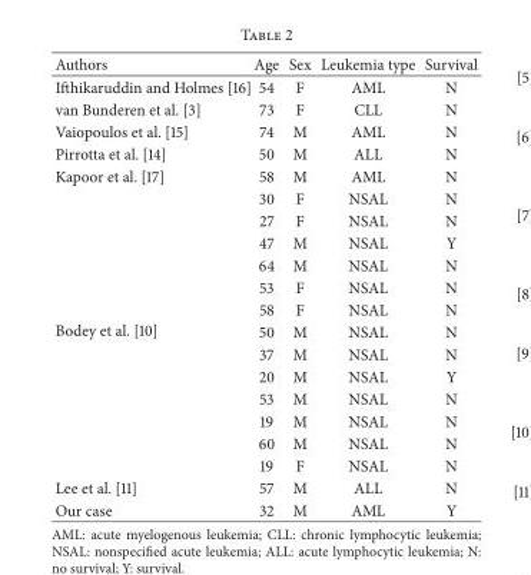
<table><thead><tr><td>Authors</td><td>Age</td><td>Sex</td><td>Leukemia type</td><td>Survival</td></tr></thead><tbody><tr><td>Ifthikaruddin and Holmes [16]</td><td>54</td><td>F</td><td>AML</td><td>N</td></tr><tr><td>van Bunderen et al. [3]</td><td>73</td><td>F</td><td>CLL</td><td>N</td></tr><tr><td>Vaiopoulos et al. [15]</td><td>74</td><td>M</td><td>AML</td><td>N</td></tr><tr><td>Pirrotta et al. [14]</td><td>50</td><td>M</td><td>ALL</td><td>N</td></tr><tr><td>Kapoor et al. [17]</td><td>58</td><td>M</td><td>AML</td><td>N</td></tr><tr><td rowspan="13">Bodey et al. [10]</td><td>30</td><td>F</td><td>NSAL</td><td>N</td></tr><tr><td>27</td><td>F</td><td>NSAL</td><td>N</td></tr><tr><td>47</td><td>M</td><td>NSAL</td><td>Y</td></tr><tr><td>64</td><td>M</td><td>NSAL</td><td>N</td></tr><tr><td>53</td><td>F</td><td>NSAL</td><td>N</td></tr><tr><td>58</td><td>F</td><td>NSAL</td><td>N</td></tr><tr><td>50</td><td>M</td><td>NSAL</td><td>N</td></tr><tr><td>37</td><td>M</td><td>NSAL</td><td>N</td></tr><tr><td>20</td><td>M</td><td>NSAL</td><td>Y</td></tr><tr><td>53</td><td>M</td><td>NSAL</td><td>N</td></tr><tr><td>19</td><td>M</td><td>NSAL</td><td>N</td></tr><tr><td>60</td><td>M</td><td>NSAL</td><td>N</td></tr><tr><td>19</td><td>F</td><td>NSAL</td><td>N</td></tr><tr><td>Lee et al. [11]</td><td>57</td><td>M</td><td>ALL</td><td>N</td></tr><tr><td>Our case</td><td>32</td><td>M</td><td>AML</td><td>Y</td></tr></tbody></table>